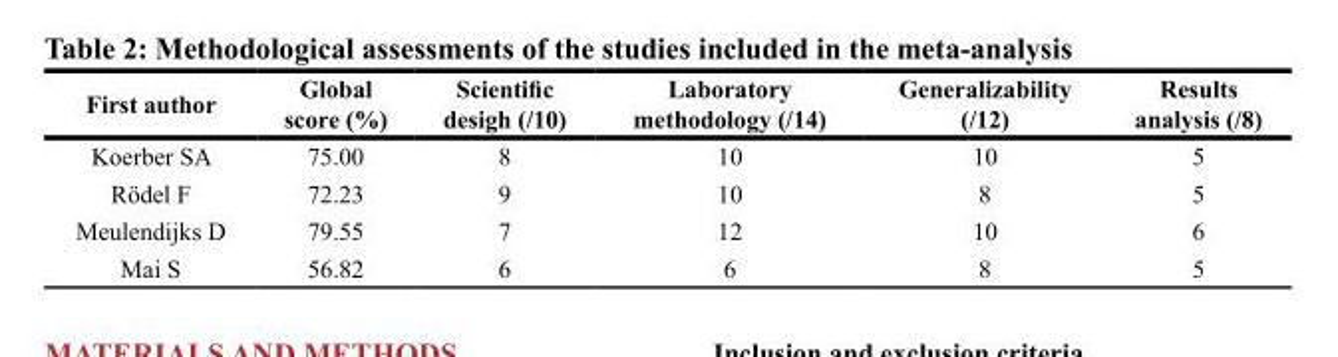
<table><thead><tr><td>First author</td><td>Global score (%)</td><td>Scientific desigh (/10)</td><td>Laboratory methodology (/14)</td><td>Generalizability (/12)</td><td>Results analysis (/8)</td></tr></thead><tbody><tr><td>Koerber SA</td><td>75.00</td><td>8</td><td>10</td><td>10</td><td>5</td></tr><tr><td>Rödel F</td><td>72.23</td><td>9</td><td>10</td><td>8</td><td>5</td></tr><tr><td>Meulendijks D</td><td>79.55</td><td>7</td><td>12</td><td>10</td><td>6</td></tr><tr><td>Mai S</td><td>56.82</td><td>6</td><td>6</td><td>8</td><td>5</td></tr></tbody></table>